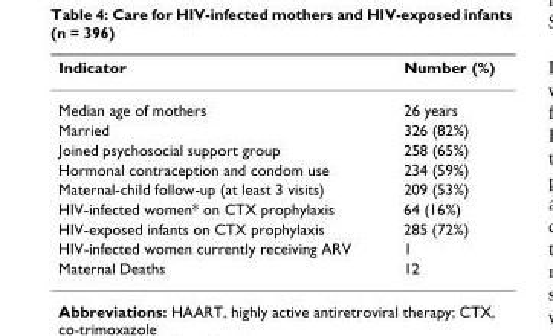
<table><thead><tr><td>Indicator</td><td>Number (%)</td></tr></thead><tbody><tr><td>Median age of mothers</td><td>26 years</td></tr><tr><td>Married</td><td>326 (82%)</td></tr><tr><td>Joined psychosocial support group</td><td>258 (65%)</td></tr><tr><td>Hormonal contraception and condom use</td><td>234 (59%)</td></tr><tr><td>Maternal-child follow-up (at least 3 visits)</td><td>209 (53%)</td></tr><tr><td>HIV-infected women* on CTX prophylaxis</td><td>64 (16%)</td></tr><tr><td>HIV-exposed infants on CTX prophylaxis</td><td>285 (72%)</td></tr><tr><td>HIV-infected women currently receiving ARV</td><td>1</td></tr><tr><td>Maternal Deaths</td><td>12</td></tr></tbody></table>